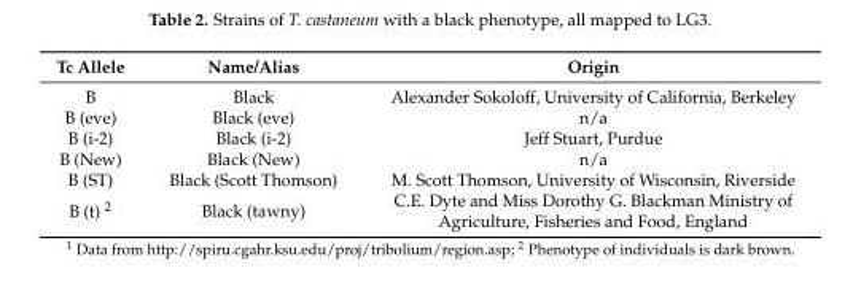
<table><thead><tr><td>Tc Allele</td><td>Name/Alias</td><td>Origin</td></tr></thead><tbody><tr><td>B</td><td>Black</td><td>Alexander Sokoloff, University of California, Berkeley</td></tr><tr><td>B (eve)</td><td>Black (eve)</td><td>n/a</td></tr><tr><td>B (i-2)</td><td>Black (i-2)</td><td>Jeff Stuart, Purdue</td></tr><tr><td>B (New)</td><td>Black (New)</td><td>n/a</td></tr><tr><td>B (ST)</td><td>Black (Scott Thomson)</td><td>M. Scott Thomson, University of Wisconsin, Riverside</td></tr><tr><td>B (t) <sup>2</sup></td><td>Black (tawny)</td><td>C.E. Dyte and Miss Dorothy G. Blackman Ministry of Agriculture, Fisheries and Food, England</td></tr></tbody></table>